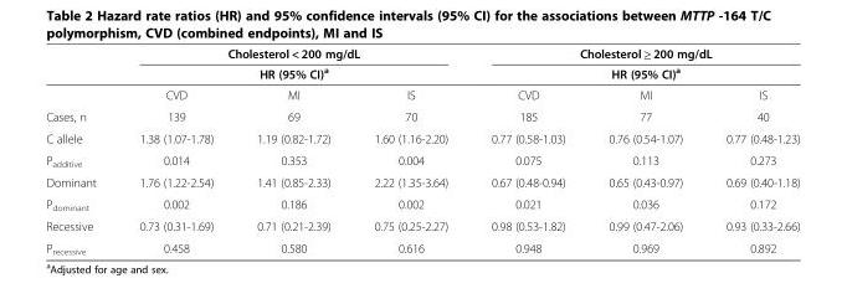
<table><thead><tr><td rowspan="3"></td><td rowspan="2" colspan="3">Cholesterol &lt; 200 mg/dL HR (95% CI)<sup>a</sup></td><td rowspan="2" colspan="3">Cholesterol ≥ 200 mg/dL HR (95% CI)<sup>a</sup></td></tr><tr></tr><tr><td>CVD</td><td>MI</td><td>IS</td><td>CVD</td><td>MI</td><td>IS</td></tr></thead><tbody><tr><td>Cases, n</td><td>139</td><td>69</td><td>70</td><td>185</td><td>77</td><td>40</td></tr><tr><td>C allele</td><td>1.38 (1.07-1.78)</td><td>1.19 (0.82-1.72)</td><td>1.60 (1.16-2.20)</td><td>0.77 (0.58-1.03)</td><td>0.76 (0.54-1.07)</td><td>0.77 (0.48-1.23)</td></tr><tr><td>P<sub>additive</sub></td><td>0.014</td><td>0.353</td><td>0.004</td><td>0.075</td><td>0.113</td><td>0.273</td></tr><tr><td>Dominant</td><td>1.76 (1.22-2.54)</td><td>1.41 (0.85-2.33)</td><td>2.22 (1.35-3.64)</td><td>0.67 (0.48-0.94)</td><td>0.65 (0.43-0.97)</td><td>0.69 (0.40-1.18)</td></tr><tr><td>P<sub>dominant</sub></td><td>0.002</td><td>0.186</td><td>0.002</td><td>0.021</td><td>0.036</td><td>0.172</td></tr><tr><td>Recessive</td><td>0.73 (0.31-1.69)</td><td>0.71 (0.21-2.39)</td><td>0.75 (0.25-2.27)</td><td>0.98 (0.53-1.82)</td><td>0.99 (0.47-2.06)</td><td>0.93 (0.33-2.66)</td></tr><tr><td>P<sub>recessive</sub></td><td>0.458</td><td>0.580</td><td>0.616</td><td>0.948</td><td>0.969</td><td>0.892</td></tr></tbody></table>